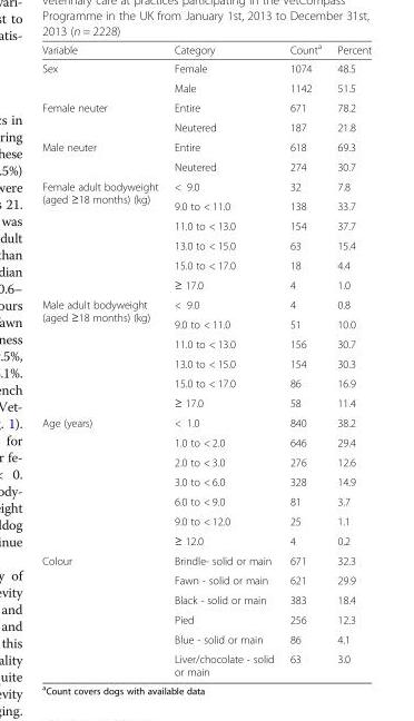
<table><thead><tr><td>Variable</td><td>Category</td><td>Count<sup>a</sup></td><td>Percent</td></tr></thead><tbody><tr><td rowspan="2">Sex</td><td>Female</td><td>1074</td><td>48.5</td></tr><tr><td>Male</td><td>1142</td><td>51.5</td></tr><tr><td rowspan="2">Female neuter</td><td>Entire</td><td>671</td><td>78.2</td></tr><tr><td>Neutered</td><td>187</td><td>21.8</td></tr><tr><td rowspan="2">Male neuter</td><td>Entire</td><td>618</td><td>69.3</td></tr><tr><td>Neutered</td><td>274</td><td>30.7</td></tr><tr><td rowspan="6">Female adult bodyweight (aged ≥18 months) (kg)</td><td>&lt; 9.0</td><td>32</td><td>7.8</td></tr><tr><td>9.0 to &lt; 11.0</td><td>138</td><td>33.7</td></tr><tr><td>11.0 to &lt; 13.0</td><td>154</td><td>37.7</td></tr><tr><td>13.0 to &lt; 15.0</td><td>63</td><td>15.4</td></tr><tr><td>15.0 to &lt; 17.0</td><td>18</td><td>4.4</td></tr><tr><td>≥ 17.0</td><td>4</td><td>1.0</td></tr><tr><td rowspan="6">Male adult bodyweight (aged ≥18 months) (kg)</td><td>&lt; 9.0</td><td>4</td><td>0.8</td></tr><tr><td>9.0 to &lt; 11.0</td><td>51</td><td>10.0</td></tr><tr><td>11.0 to &lt; 13.0</td><td>156</td><td>30.7</td></tr><tr><td>13.0 to &lt; 15.0</td><td>154</td><td>30.3</td></tr><tr><td>15.0 to &lt; 17.0</td><td>86</td><td>16.9</td></tr><tr><td>≥ 17.0</td><td>58</td><td>11.4</td></tr><tr><td rowspan="7">Age (years)</td><td>&lt; 1.0</td><td>840</td><td>38.2</td></tr><tr><td>1.0 to &lt; 2.0</td><td>646</td><td>29.4</td></tr><tr><td>2.0 to &lt; 3.0</td><td>276</td><td>12.6</td></tr><tr><td>3.0 to &lt; 6.0</td><td>328</td><td>14.9</td></tr><tr><td>6.0 to &lt; 9.0</td><td>81</td><td>3.7</td></tr><tr><td>9.0 to &lt; 12.0</td><td>25</td><td>1.1</td></tr><tr><td>≥ 12.0</td><td>4</td><td>0.2</td></tr><tr><td rowspan="6">Colour</td><td>Brindle- solid or main</td><td>671</td><td>32.3</td></tr><tr><td>Fawn - solid or main</td><td>621</td><td>29.9</td></tr><tr><td>Black - solid or main</td><td>383</td><td>18.4</td></tr><tr><td>Pied</td><td>256</td><td>12.3</td></tr><tr><td>Blue - solid or main</td><td>86</td><td>4.1</td></tr><tr><td>Liver/chocolate - solid or main</td><td>63</td><td>3.0</td></tr></tbody></table>